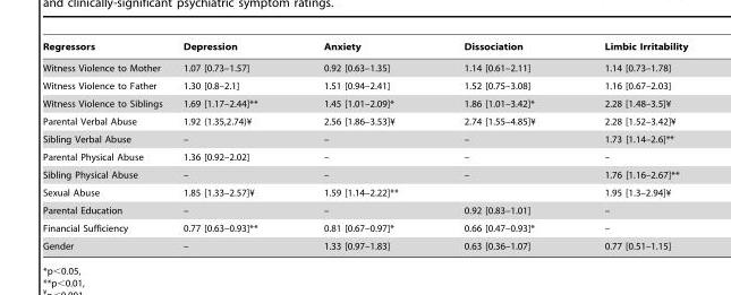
<table><thead><tr><td>Regressors</td><td>Depression</td><td>Anxiety</td><td>Dissociation</td><td>Limbic Irritability</td></tr></thead><tbody><tr><td>Witness Violence to Mother</td><td>1.07 [0.73–1.57]</td><td>0.92 [0.63–1.35]</td><td>1.14 [0.61–2.11]</td><td>1.14 [0.73–1.78]</td></tr><tr><td>Witness Violence to Father</td><td>1.30 [0.8–2.1]</td><td>1.51 [0.94–2.41]</td><td>1.52 [0.75–3.08]</td><td>1.16 [0.67–2.03]</td></tr><tr><td>Witness Violence to Siblings</td><td>1.69 [1.17–2.44]**</td><td>1.45 [1.01–2.09]*</td><td>1.86 [1.01–3.42]*</td><td>2.28 [1.48–3.5]¥</td></tr><tr><td>Parental Verbal Abuse</td><td>1.92 (1.35,2.74)¥</td><td>2.56 [1.86–3.53]¥</td><td>2.74 [1.55–4.85]¥</td><td>2.28 [1.52–3.42]¥</td></tr><tr><td>Sibling Verbal Abuse</td><td>–</td><td>–</td><td>–</td><td>1.73 [1.14–2.6]**</td></tr><tr><td>Parental Physical Abuse</td><td>1.36 [0.92–2.02]</td><td>–</td><td>–</td><td>–</td></tr><tr><td>Sibling Physical Abuse</td><td>–</td><td>–</td><td>–</td><td>1.76 [1.16–2.67]**</td></tr><tr><td>Sexual Abuse</td><td>1.85 [1.33–2.57]¥</td><td>1.59 [1.14–2.22]**</td><td></td><td>1.95 [1.3–2.94]¥</td></tr><tr><td>Parental Education</td><td>–</td><td>–</td><td>0.92 [0.83–1.01]</td><td>–</td></tr><tr><td>Financial Sufficiency</td><td>0.77 [0.63–0.93]**</td><td>0.81 [0.67–0.97]*</td><td>0.66 [0.47–0.93]*</td><td>–</td></tr><tr><td>Gender</td><td>–</td><td>1.33 [0.97–1.83]</td><td>0.63 [0.36–1.07]</td><td>0.77 [0.51–1.15]</td></tr></tbody></table>